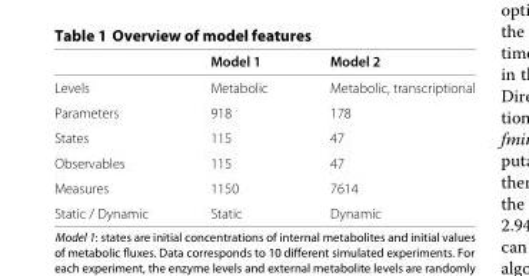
<table><thead><tr><td></td><td>Model 1</td><td>Model 2</td></tr></thead><tbody><tr><td>Levels</td><td>Metabolic</td><td>Metabolic, transcriptional</td></tr><tr><td>Parameters</td><td>918</td><td>178</td></tr><tr><td>States</td><td>115</td><td>47</td></tr><tr><td>Observables</td><td>115</td><td>47</td></tr><tr><td>Measures</td><td>1150</td><td>7614</td></tr><tr><td>Static / Dynamic</td><td>Static</td><td>Dynamic</td></tr></tbody></table>